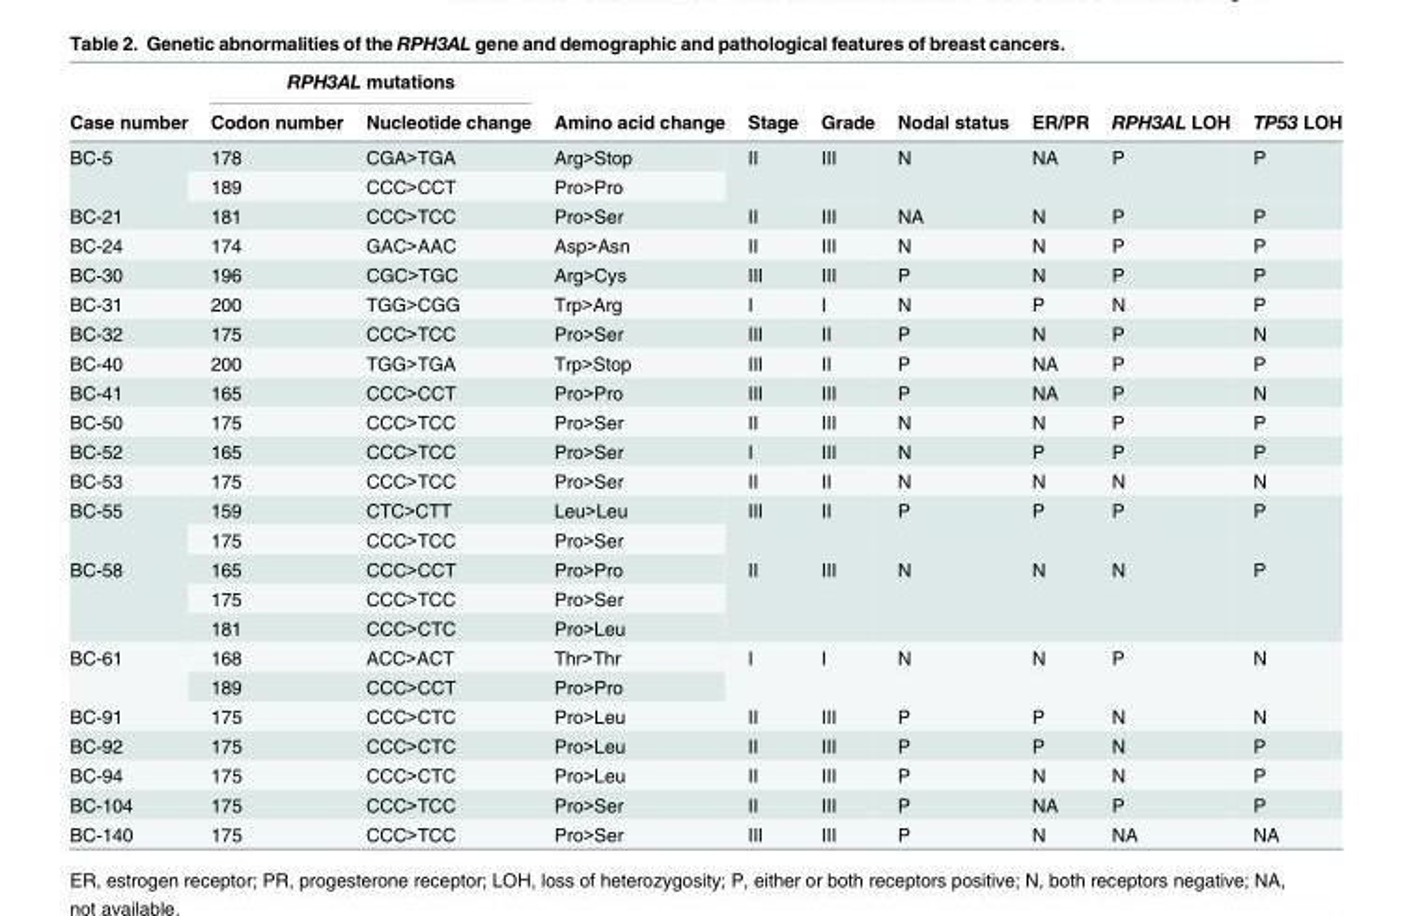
<table><thead><tr><td rowspan="2">Case number</td><td colspan="2">RPH3AL mutations</td><td rowspan="2">Amino acid change</td><td rowspan="2">Stage</td><td rowspan="2">Grade</td><td rowspan="2">Nodal status</td><td rowspan="2">ER/PR</td><td rowspan="2">RPH3AL LOH</td><td rowspan="2">TP53 LOH</td></tr><tr><td>Codon number</td><td>Nucleotide change</td></tr></thead><tbody><tr><td rowspan="2">BC-5</td><td>178</td><td>CGA&gt;TGA</td><td>Arg&gt;Stop</td><td rowspan="2">II</td><td rowspan="2">III</td><td rowspan="2">N</td><td rowspan="2">NA</td><td rowspan="2">P</td><td rowspan="2">P</td></tr><tr><td>189</td><td>CCC&gt;CCT</td><td>Pro&gt;Pro</td></tr><tr><td>BC-21</td><td>181</td><td>CCC&gt;TCC</td><td>Pro&gt;Ser</td><td>II</td><td>III</td><td>NA</td><td>N</td><td>P</td><td>P</td></tr><tr><td>BC-24</td><td>174</td><td>GAC&gt;AAC</td><td>Asp&gt;Asn</td><td>II</td><td>III</td><td>N</td><td>N</td><td>P</td><td>P</td></tr><tr><td>BC-30</td><td>196</td><td>CGC&gt;TGC</td><td>Arg&gt;Cys</td><td>III</td><td>III</td><td>P</td><td>N</td><td>P</td><td>P</td></tr><tr><td>BC-31</td><td>200</td><td>TGG&gt;CGG</td><td>Trp&gt;Arg</td><td>I</td><td>I</td><td>N</td><td>P</td><td>N</td><td>P</td></tr><tr><td>BC-32</td><td>175</td><td>CCC&gt;TCC</td><td>Pro&gt;Ser</td><td>III</td><td>II</td><td>P</td><td>N</td><td>P</td><td>N</td></tr><tr><td>BC-40</td><td>200</td><td>TGG&gt;TGA</td><td>Trp&gt;Stop</td><td>III</td><td>II</td><td>P</td><td>NA</td><td>P</td><td>P</td></tr><tr><td>BC-41</td><td>165</td><td>CCC&gt;CCT</td><td>Pro&gt;Pro</td><td>III</td><td>III</td><td>P</td><td>NA</td><td>P</td><td>N</td></tr><tr><td>BC-50</td><td>175</td><td>CCC&gt;TCC</td><td>Pro&gt;Ser</td><td>II</td><td>III</td><td>N</td><td>N</td><td>P</td><td>P</td></tr><tr><td>BC-52</td><td>165</td><td>CCC&gt;TCC</td><td>Pro&gt;Ser</td><td>I</td><td>III</td><td>N</td><td>P</td><td>P</td><td>P</td></tr><tr><td>BC-53</td><td>175</td><td>CCC&gt;TCC</td><td>Pro&gt;Ser</td><td>II</td><td>II</td><td>N</td><td>N</td><td>N</td><td>N</td></tr><tr><td rowspan="2">BC-55</td><td>159</td><td>CTC&gt;CTT</td><td>Leu&gt;Leu</td><td rowspan="2">III</td><td rowspan="2">II</td><td rowspan="2">P</td><td rowspan="2">P</td><td rowspan="2">P</td><td rowspan="2">P</td></tr><tr><td>175</td><td>CCC&gt;TCC</td><td>Pro&gt;Ser</td></tr><tr><td rowspan="3">BC-58</td><td>165</td><td>CCC&gt;CCT</td><td>Pro&gt;Pro</td><td rowspan="3">II</td><td rowspan="3">III</td><td rowspan="3">N</td><td rowspan="3">N</td><td rowspan="3">N</td><td rowspan="3">P</td></tr><tr><td>175</td><td>CCC&gt;TCC</td><td>Pro&gt;Ser</td></tr><tr><td>181</td><td>CCC&gt;CTC</td><td>Pro&gt;Leu</td></tr><tr><td rowspan="2">BC-61</td><td>168</td><td>ACC&gt;ACT</td><td>Thr&gt;Thr</td><td rowspan="2">I</td><td rowspan="2">I</td><td rowspan="2">N</td><td rowspan="2">N</td><td rowspan="2">P</td><td rowspan="2">N</td></tr><tr><td>189</td><td>CCC&gt;CCT</td><td>Pro&gt;Pro</td></tr><tr><td>BC-91</td><td>175</td><td>CCC&gt;CTC</td><td>Pro&gt;Leu</td><td>II</td><td>III</td><td>P</td><td>P</td><td>N</td><td>N</td></tr><tr><td>BC-92</td><td>175</td><td>CCC&gt;CTC</td><td>Pro&gt;Leu</td><td>II</td><td>III</td><td>P</td><td>P</td><td>N</td><td>P</td></tr><tr><td>BC-94</td><td>175</td><td>CCC&gt;CTC</td><td>Pro&gt;Leu</td><td>II</td><td>III</td><td>P</td><td>N</td><td>N</td><td>P</td></tr><tr><td>BC-104</td><td>175</td><td>CCC&gt;TCC</td><td>Pro&gt;Ser</td><td>II</td><td>III</td><td>P</td><td>NA</td><td>P</td><td>P</td></tr><tr><td>BC-140</td><td>175</td><td>CCC&gt;TCC</td><td>Pro&gt;Ser</td><td>III</td><td>III</td><td>P</td><td>N</td><td>NA</td><td>NA</td></tr></tbody></table>